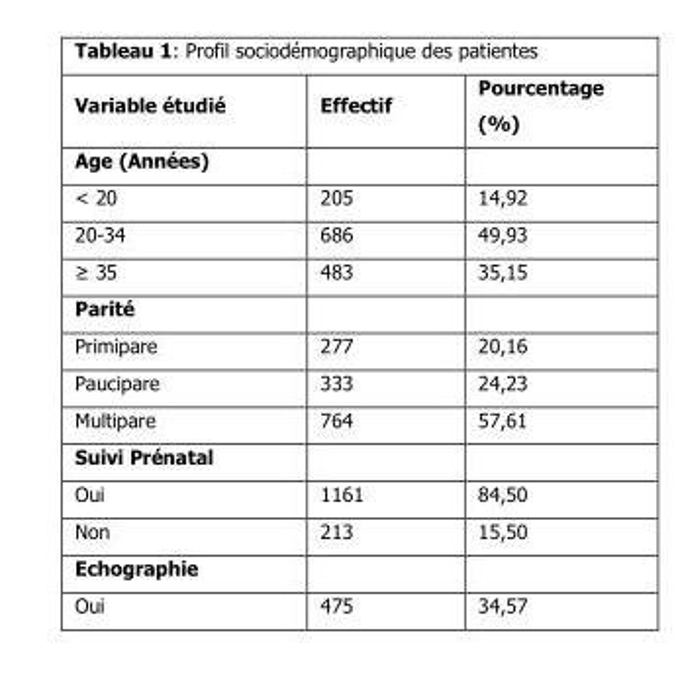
<table><thead><tr><td>Variable étudié</td><td>Effectif</td><td>Pourcentage (%)</td></tr></thead><tbody><tr><td colspan="3">Age (Années)</td></tr><tr><td>&lt; 20</td><td>205</td><td>14,92</td></tr><tr><td>20-34</td><td>686</td><td>49,93</td></tr><tr><td>≥ 35</td><td>483</td><td>35,15</td></tr><tr><td colspan="3">Parité</td></tr><tr><td>Primipare</td><td>277</td><td>20,16</td></tr><tr><td>Paucipare</td><td>333</td><td>24,23</td></tr><tr><td>Multipare</td><td>764</td><td>57,61</td></tr><tr><td colspan="3">Suivi Prénatal</td></tr><tr><td>Oui</td><td>1161</td><td>84,50</td></tr><tr><td>Non</td><td>213</td><td>15,50</td></tr><tr><td colspan="3">Echographie</td></tr><tr><td>Oui</td><td>475</td><td>34,57</td></tr></tbody></table>